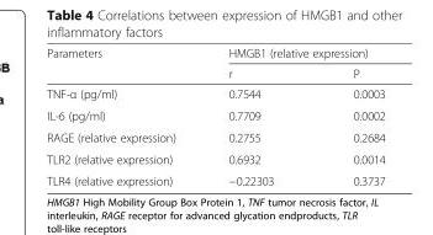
<table><thead><tr><td rowspan="2">Parameters</td><td colspan="2">HMGB1 (relative expression)</td></tr><tr><td>r</td><td>P</td></tr></thead><tbody><tr><td>TNF-α (pg/ml)</td><td>0.7544</td><td>0.0003</td></tr><tr><td>IL-6 (pg/ml)</td><td>0.7709</td><td>0.0002</td></tr><tr><td>RAGE (relative expression)</td><td>0.2755</td><td>0.2684</td></tr><tr><td>TLR2 (relative expression)</td><td>0.6932</td><td>0.0014</td></tr><tr><td>TLR4 (relative expression)</td><td>−0.22303</td><td>0.3737</td></tr></tbody></table>